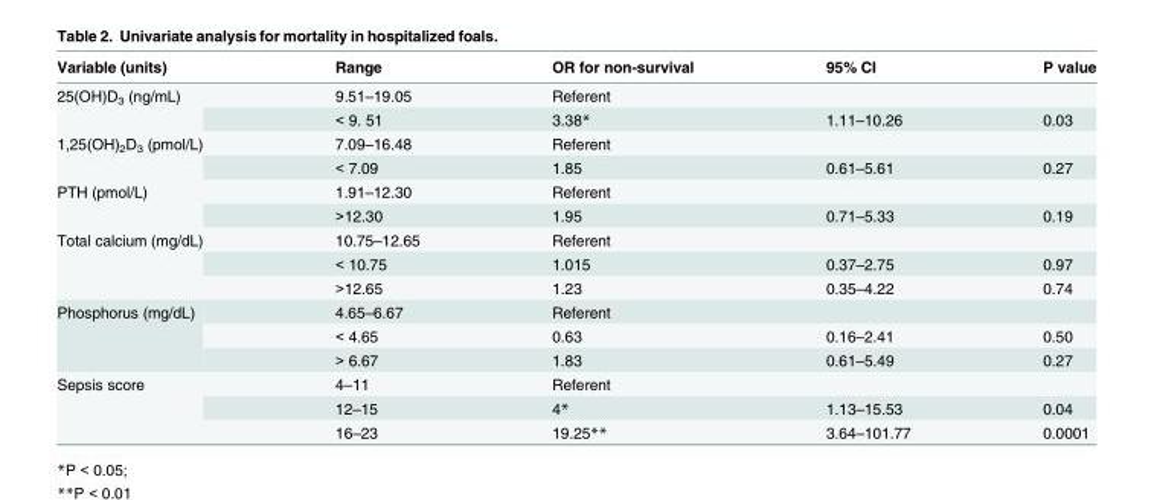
<table><thead><tr><td>Variable (units)</td><td>Range</td><td>OR for non-survival</td><td>95% CI</td><td>P value</td></tr></thead><tbody><tr><td rowspan="2">25(OH)D<sub>3</sub> (ng/mL)</td><td>9.51–19.05</td><td>Referent</td><td></td><td></td></tr><tr><td>&lt; 9. 51</td><td>3.38*</td><td>1.11–10.26</td><td>0.03</td></tr><tr><td rowspan="2">1,25(OH)<sub>2</sub>D<sub>3</sub> (pmol/L)</td><td>7.09–16.48</td><td>Referent</td><td></td><td></td></tr><tr><td>&lt; 7.09</td><td>1.85</td><td>0.61–5.61</td><td>0.27</td></tr><tr><td rowspan="2">PTH (pmol/L)</td><td>1.91–12.30</td><td>Referent</td><td></td><td></td></tr><tr><td>&gt;12.30</td><td>1.95</td><td>0.71–5.33</td><td>0.19</td></tr><tr><td rowspan="3">Total calcium (mg/dL)</td><td>10.75–12.65</td><td>Referent</td><td></td><td></td></tr><tr><td>&lt; 10.75</td><td>1.015</td><td>0.37–2.75</td><td>0.97</td></tr><tr><td>&gt;12.65</td><td>1.23</td><td>0.35–4.22</td><td>0.74</td></tr><tr><td rowspan="3">Phosphorus (mg/dL)</td><td>4.65–6.67</td><td>Referent</td><td></td><td></td></tr><tr><td>&lt; 4.65</td><td>0.63</td><td>0.16–2.41</td><td>0.50</td></tr><tr><td>&gt; 6.67</td><td>1.83</td><td>0.61–5.49</td><td>0.27</td></tr><tr><td rowspan="3">Sepsis score</td><td>4–11</td><td>Referent</td><td></td><td></td></tr><tr><td>12–15</td><td>4*</td><td>1.13–15.53</td><td>0.04</td></tr><tr><td>16–23</td><td>19.25**</td><td>3.64–101.77</td><td>0.0001</td></tr></tbody></table>